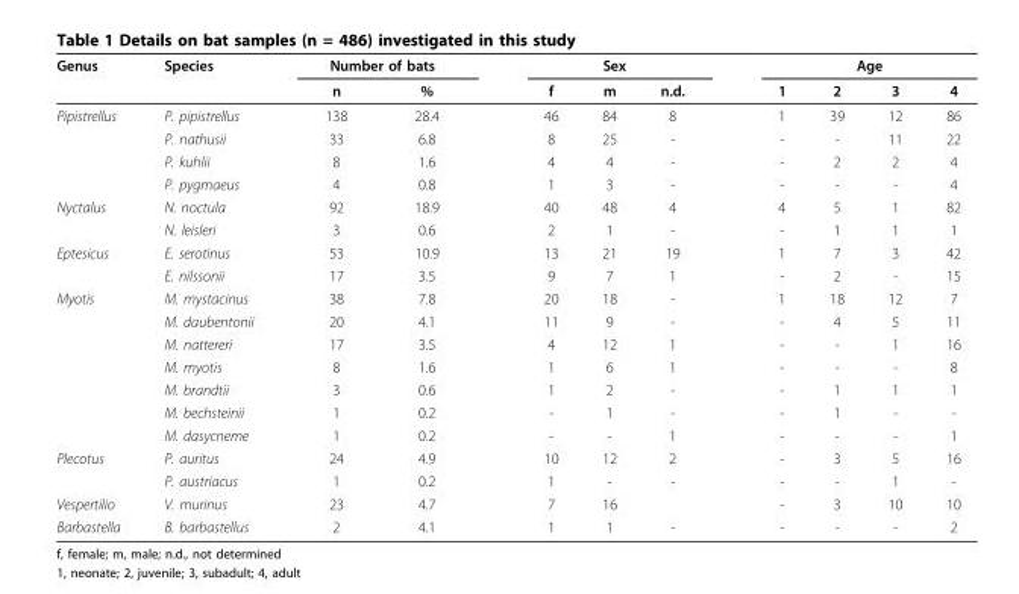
<table><thead><tr><td rowspan="2">Genus</td><td rowspan="2">Species</td><td colspan="2">Number of bats</td><td colspan="3">Sex</td><td colspan="4">Age</td></tr><tr><td>n</td><td>%</td><td>f</td><td>m</td><td>n.d.</td><td>1</td><td>2</td><td>3</td><td>4</td></tr></thead><tbody><tr><td rowspan="4">Pipistrellus</td><td>P. pipistrellus</td><td>138</td><td>28.4</td><td>46</td><td>84</td><td>8</td><td>1</td><td>39</td><td>12</td><td>86</td></tr><tr><td>P. nathusii</td><td>33</td><td>6.8</td><td>8</td><td>25</td><td>-</td><td>-</td><td>-</td><td>11</td><td>22</td></tr><tr><td>P. kuhlii</td><td>8</td><td>1.6</td><td>4</td><td>4</td><td>-</td><td>-</td><td>2</td><td>2</td><td>4</td></tr><tr><td>P. pygmaeus</td><td>4</td><td>0.8</td><td>1</td><td>3</td><td>-</td><td>-</td><td>-</td><td>-</td><td>4</td></tr><tr><td rowspan="2">Nyctalus</td><td>N. noctula</td><td>92</td><td>18.9</td><td>40</td><td>48</td><td>4</td><td>4</td><td>5</td><td>1</td><td>82</td></tr><tr><td>N. leisleri</td><td>3</td><td>0.6</td><td>2</td><td>1</td><td>-</td><td>-</td><td>1</td><td>1</td><td>1</td></tr><tr><td rowspan="2">Eptesicus</td><td>E. serotinus</td><td>53</td><td>10.9</td><td>13</td><td>21</td><td>19</td><td>1</td><td>7</td><td>3</td><td>42</td></tr><tr><td>E. nilssonii</td><td>17</td><td>3.5</td><td>9</td><td>7</td><td>1</td><td>-</td><td>2</td><td>-</td><td>15</td></tr><tr><td rowspan="7">Myotis</td><td>M. mystacinus</td><td>38</td><td>7.8</td><td>20</td><td>18</td><td>-</td><td>1</td><td>18</td><td>12</td><td>7</td></tr><tr><td>M. daubentonii</td><td>20</td><td>4.1</td><td>11</td><td>9</td><td>-</td><td>-</td><td>4</td><td>5</td><td>11</td></tr><tr><td>M. nattereri</td><td>17</td><td>3.5</td><td>4</td><td>12</td><td>1</td><td>-</td><td>-</td><td>1</td><td>16</td></tr><tr><td>M. myotis</td><td>8</td><td>1.6</td><td>1</td><td>6</td><td>1</td><td>-</td><td>-</td><td>-</td><td>8</td></tr><tr><td>M. brandtii</td><td>3</td><td>0.6</td><td>1</td><td>2</td><td>-</td><td>-</td><td>1</td><td>1</td><td>1</td></tr><tr><td>M. bechsteinii</td><td>1</td><td>0.2</td><td>-</td><td>1</td><td>-</td><td>-</td><td>1</td><td>-</td><td>-</td></tr><tr><td>M. dasycneme</td><td>1</td><td>0.2</td><td>-</td><td>-</td><td>1</td><td>-</td><td>-</td><td>-</td><td>1</td></tr><tr><td rowspan="2">Plecotus</td><td>P. auritus</td><td>24</td><td>4.9</td><td>10</td><td>12</td><td>2</td><td>-</td><td>3</td><td>5</td><td>16</td></tr><tr><td>P. austriacus</td><td>1</td><td>0.2</td><td>1</td><td>-</td><td>-</td><td>-</td><td>-</td><td>1</td><td>-</td></tr><tr><td>Vespertilio</td><td>V. murinus</td><td>23</td><td>4.7</td><td>7</td><td>16</td><td></td><td>-</td><td>3</td><td>10</td><td>10</td></tr><tr><td>Barbastella</td><td>B. barbastellus</td><td>2</td><td>4.1</td><td>1</td><td>1</td><td>-</td><td>-</td><td>-</td><td>-</td><td>2</td></tr></tbody></table>